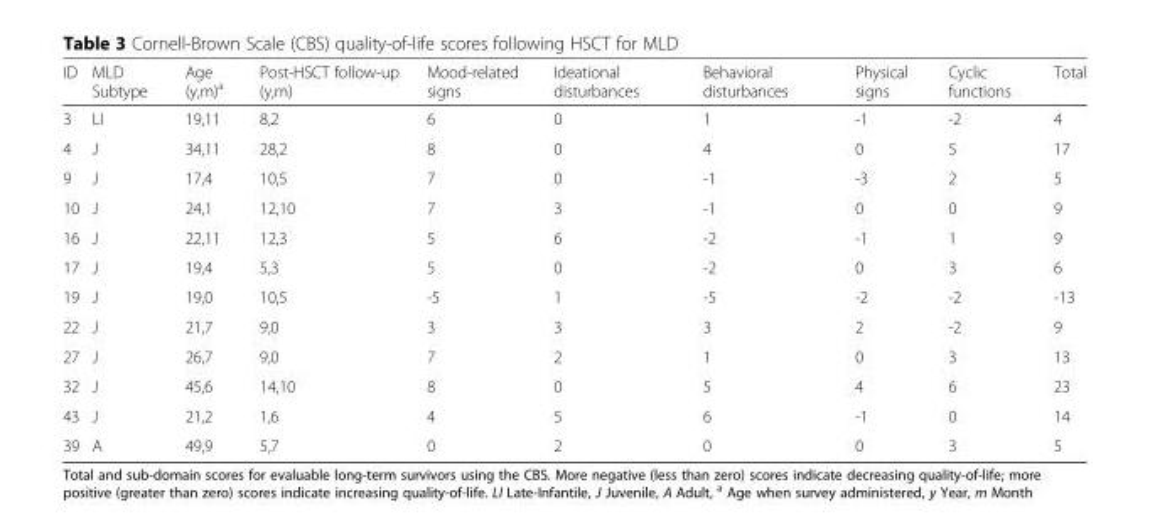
<table><thead><tr><td>ID</td><td>MLD Subtype</td><td>Age (y,m)<sup>a</sup></td><td>Post-HSCT follow-up (y,m)</td><td>Mood-related signs</td><td>Ideational disturbances</td><td>Behavioral disturbances</td><td>Physical signs</td><td>Cyclic functions</td><td>Total</td></tr></thead><tbody><tr><td>3</td><td>LI</td><td>19,11</td><td>8,2</td><td>6</td><td>0</td><td>1</td><td>-1</td><td>-2</td><td>4</td></tr><tr><td>4</td><td>J</td><td>34,11</td><td>28,2</td><td>8</td><td>0</td><td>4</td><td>0</td><td>5</td><td>17</td></tr><tr><td>9</td><td>J</td><td>17,4</td><td>10,5</td><td>7</td><td>0</td><td>-1</td><td>-3</td><td>2</td><td>5</td></tr><tr><td>10</td><td>J</td><td>24,1</td><td>12,10</td><td>7</td><td>3</td><td>-1</td><td>0</td><td>0</td><td>9</td></tr><tr><td>16</td><td>J</td><td>22,11</td><td>12,3</td><td>5</td><td>6</td><td>-2</td><td>-1</td><td>1</td><td>9</td></tr><tr><td>17</td><td>J</td><td>19,4</td><td>5,3</td><td>5</td><td>0</td><td>-2</td><td>0</td><td>3</td><td>6</td></tr><tr><td>19</td><td>J</td><td>19,0</td><td>10,5</td><td>-5</td><td>1</td><td>-5</td><td>-2</td><td>-2</td><td>-13</td></tr><tr><td>22</td><td>J</td><td>21,7</td><td>9,0</td><td>3</td><td>3</td><td>3</td><td>2</td><td>-2</td><td>9</td></tr><tr><td>27</td><td>J</td><td>26,7</td><td>9,0</td><td>7</td><td>2</td><td>1</td><td>0</td><td>3</td><td>13</td></tr><tr><td>32</td><td>J</td><td>45,6</td><td>14,10</td><td>8</td><td>0</td><td>5</td><td>4</td><td>6</td><td>23</td></tr><tr><td>43</td><td>J</td><td>21,2</td><td>1,6</td><td>4</td><td>5</td><td>6</td><td>-1</td><td>0</td><td>14</td></tr><tr><td>39</td><td>A</td><td>49,9</td><td>5,7</td><td>0</td><td>2</td><td>0</td><td>0</td><td>3</td><td>5</td></tr></tbody></table>